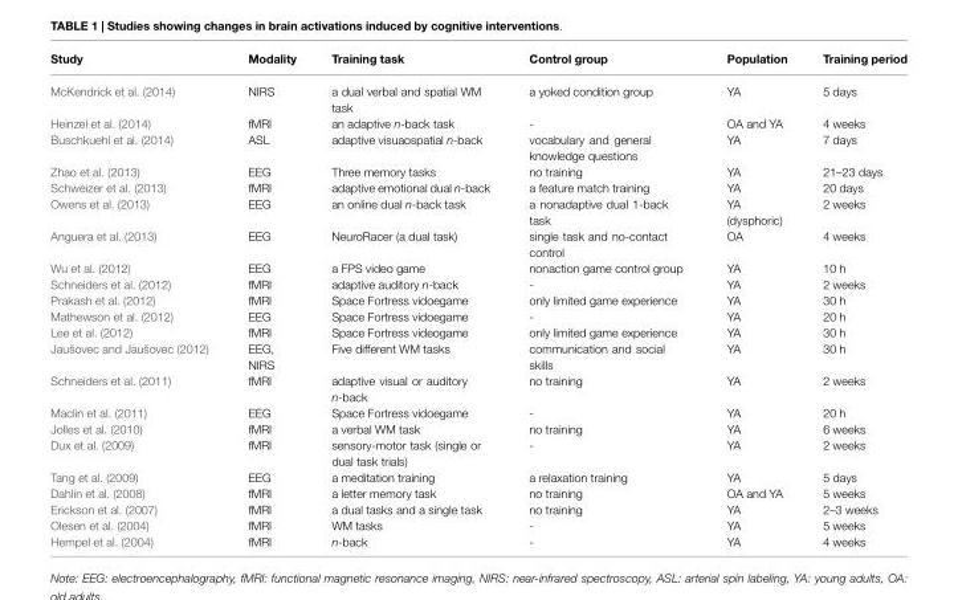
<table><thead><tr><td>Study</td><td>Modality</td><td>Training task</td><td>Control group</td><td>Population</td><td>Training period</td></tr></thead><tbody><tr><td>McKendrick et al. (2014)</td><td>NIRS</td><td>a dual verbal and spatial WM task</td><td>a yoked condition group</td><td>YA</td><td>5 days</td></tr><tr><td>Heinzel et al. (2014)</td><td>fMRI</td><td>an adaptive n-back task</td><td>-</td><td>OA and YA</td><td>4 weeks</td></tr><tr><td>Buschkuehl et al. (2014)</td><td>ASL</td><td>adaptive visuaospatial n-back</td><td>vocabulary and general knowledge questions</td><td>YA</td><td>7 days</td></tr><tr><td>Zhao et al. (2013)</td><td>EEG</td><td>Three memory tasks</td><td>no training</td><td>YA</td><td>21–23 days</td></tr><tr><td>Schweizer et al. (2013)</td><td>fMRI</td><td>adaptive emotional dual n-back</td><td>a feature match training</td><td>YA</td><td>20 days</td></tr><tr><td>Owens et al. (2013)</td><td>EEG</td><td>an online dual n-back task</td><td>a nonadaptive dual 1-back task</td><td>YA (dysphoric)</td><td>2 weeks</td></tr><tr><td>Anguera et al. (2013)</td><td>EEG</td><td>NeuroRacer (a dual task)</td><td>single task and no-contact control</td><td>OA</td><td>4 weeks</td></tr><tr><td>Wu et al. (2012)</td><td>EEG</td><td>a FPS video game</td><td>nonaction game control group</td><td>YA</td><td>10 h</td></tr><tr><td>Schneiders et al. (2012)</td><td>fMRI</td><td>adaptive auditory n-back</td><td>-</td><td>YA</td><td>2 weeks</td></tr><tr><td>Prakash et al. (2012)</td><td>fMRI</td><td>Space Fortress vidoegame</td><td>only limited game experience</td><td>YA</td><td>30 h</td></tr><tr><td>Mathewson et al. (2012)</td><td>EEG</td><td>Space Fortress vidoegame</td><td>-</td><td>YA</td><td>20 h</td></tr><tr><td>Lee et al. (2012)</td><td>fMRI</td><td>Space Fortress videogame</td><td>only limited game experience</td><td>YA</td><td>30 h</td></tr><tr><td>Jaušovec and Jaušovec (2012)</td><td>EEG, NIRS</td><td>Five different WM tasks</td><td>communication and social skills</td><td>YA</td><td>30 h</td></tr><tr><td>Schneiders et al. (2011)</td><td>fMRI</td><td>adaptive visual or auditory n-back</td><td>no training</td><td>YA</td><td>2 weeks</td></tr><tr><td>Maclin et al. (2011)</td><td>EEG</td><td>Space Fortress vidoegame</td><td>-</td><td>YA</td><td>20 h</td></tr><tr><td>Jolles et al. (2010)</td><td>fMRI</td><td>a verbal WM task</td><td>no training</td><td>YA</td><td>6 weeks</td></tr><tr><td>Dux et al. (2009)</td><td>fMRI</td><td>sensory-motor task (single or dual task trials)</td><td>-</td><td>YA</td><td>2 weeks</td></tr><tr><td>Tang et al. (2009)</td><td>EEG</td><td>a meditation training</td><td>a relaxation training</td><td>YA</td><td>5 days</td></tr><tr><td>Dahlin et al. (2008)</td><td>fMRI</td><td>a letter memory task</td><td>no training</td><td>OA and YA</td><td>5 weeks</td></tr><tr><td>Erickson et al. (2007)</td><td>fMRI</td><td>a dual tasks and a single task</td><td>no training</td><td>YA</td><td>2–3 weeks</td></tr><tr><td>Olesen et al. (2004)</td><td>fMRI</td><td>WM tasks</td><td>-</td><td>YA</td><td>5 weeks</td></tr><tr><td>Hempel et al. (2004)</td><td>fMRI</td><td>n-back</td><td>-</td><td>YA</td><td>4 weeks</td></tr></tbody></table>